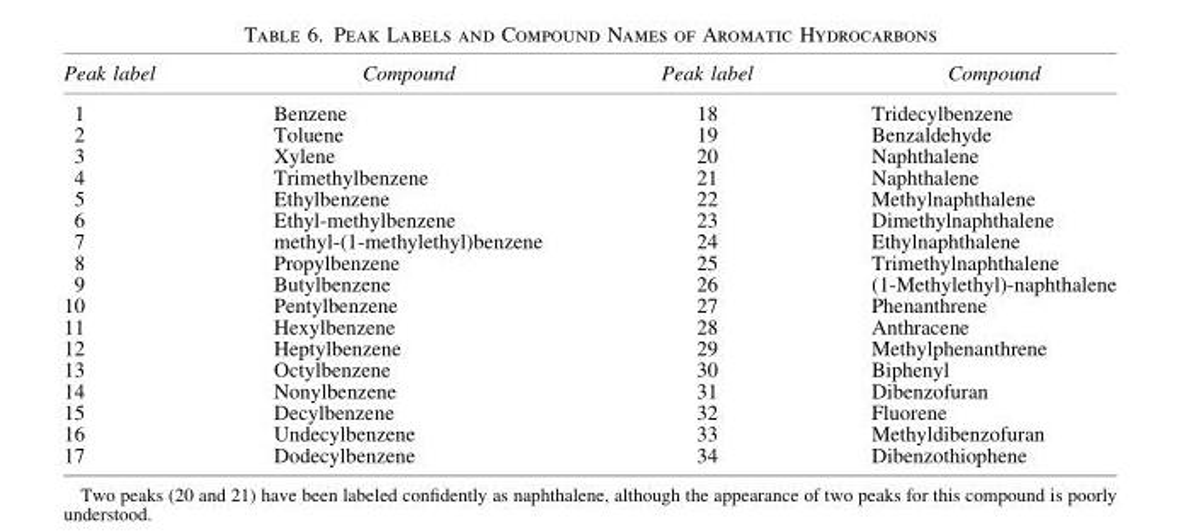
<table><thead><tr><td>Peak label</td><td>Compound</td><td>Peak label</td><td>Compound</td></tr></thead><tbody><tr><td>1</td><td>Benzene</td><td>18</td><td>Tridecylbenzene</td></tr><tr><td>2</td><td>Toluene</td><td>19</td><td>Benzaldehyde</td></tr><tr><td>3</td><td>Xylene</td><td>20</td><td>Naphthalene</td></tr><tr><td>4</td><td>Trimethylbenzene</td><td>21</td><td>Naphthalene</td></tr><tr><td>5</td><td>Ethylbenzene</td><td>22</td><td>Methylnaphthalene</td></tr><tr><td>6</td><td>Ethyl-methylbenzene</td><td>23</td><td>Dimethylnaphthalene</td></tr><tr><td>7</td><td>methyl-(1-methylethyl)benzene</td><td>24</td><td>Ethylnaphthalene</td></tr><tr><td>8</td><td>Propylbenzene</td><td>25</td><td>Trimethylnaphthalene</td></tr><tr><td>9</td><td>Butylbenzene</td><td>26</td><td>(1-Methylethyl)-naphthalene</td></tr><tr><td>10</td><td>Pentylbenzene</td><td>27</td><td>Phenanthrene</td></tr><tr><td>11</td><td>Hexylbenzene</td><td>28</td><td>Anthracene</td></tr><tr><td>12</td><td>Heptylbenzene</td><td>29</td><td>Methylphenanthrene</td></tr><tr><td>13</td><td>Octylbenzene</td><td>30</td><td>Biphenyl</td></tr><tr><td>14</td><td>Nonylbenzene</td><td>31</td><td>Dibenzofuran</td></tr><tr><td>15</td><td>Decylbenzene</td><td>32</td><td>Fluorene</td></tr><tr><td>16</td><td>Undecylbenzene</td><td>33</td><td>Methyldibenzofuran</td></tr><tr><td>17</td><td>Dodecylbenzene</td><td>34</td><td>Dibenzothiophene</td></tr></tbody></table>